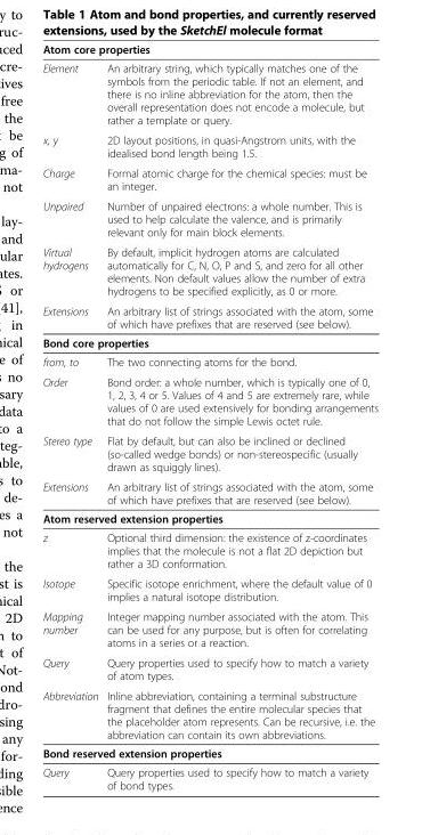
<table><thead><tr><td colspan="2">Atom core properties</td></tr><tr><td>Element</td><td>An arbitrary string, which typically matches one of the symbols from the periodic table. If not an element, and there is no inline abbreviation for the atom, then the overall representation does not encode a molecule, but rather a template or query.</td></tr></thead><tbody><tr><td>x, y</td><td>2D layout positions, in quasi-Angstrom units, with the idealised bond length being 1.5.</td></tr><tr><td>Charge</td><td>Formal atomic charge for the chemical species: must be an integer.</td></tr><tr><td>Unpaired</td><td>Number of unpaired electrons: a whole number. This is used to help calculate the valence, and is primarily relevant only for main block elements.</td></tr><tr><td>Virtual hydrogens</td><td>By default, implicit hydrogen atoms are calculated automatically for C, N, O, P and S, and zero for all other elements. Non default values allow the number of extra hydrogens to be specified explicitly, as 0 or more.</td></tr><tr><td>Extensions</td><td>An arbitrary list of strings associated with the atom, some of which have prefixes that are reserved (see below).</td></tr><tr><td colspan="2">Bond core properties</td></tr><tr><td>from, to</td><td>The two connecting atoms for the bond.</td></tr><tr><td>Order</td><td>Bond order: a whole number, which is typically one of 0, 1, 2, 3, 4 or 5. Values of 4 and 5 are extremely rare, while values of 0 are used extensively for bonding arrangements that do not follow the simple Lewis octet rule.</td></tr><tr><td>Stereo type</td><td>Flat by default, but can also be inclined or declined (so-called wedge bonds) or non-stereospecific (usually drawn as squiggly lines).</td></tr><tr><td>Extensions</td><td>An arbitrary list of strings associated with the atom, some of which have prefixes that are reserved (see below).</td></tr><tr><td colspan="2">Atom reserved extension properties</td></tr><tr><td>z</td><td>Optional third dimension: the existence of z-coordinates implies that the molecule is not a flat 2D depiction but rather a 3D conformation.</td></tr><tr><td>Isotope</td><td>Specific isotope enrichment, where the default value of 0 implies a natural isotope distribution.</td></tr><tr><td>Mapping number</td><td>Integer mapping number associated with the atom. This can be used for any purpose, but is often for correlating atoms in a series or a reaction.</td></tr><tr><td>Query</td><td>Query properties used to specify how to match a variety of atom types.</td></tr><tr><td>Abbreviation</td><td>Inline abbreviation, containing a terminal substructure fragment that defines the entire molecular species that the placeholder atom represents. Can be recursive, i.e. the abbreviation can contain its own abbreviations.</td></tr><tr><td colspan="2">Bond reserved extension properties</td></tr><tr><td>Query</td><td>Query properties used to specify how to match a variety of bond types.</td></tr></tbody></table>